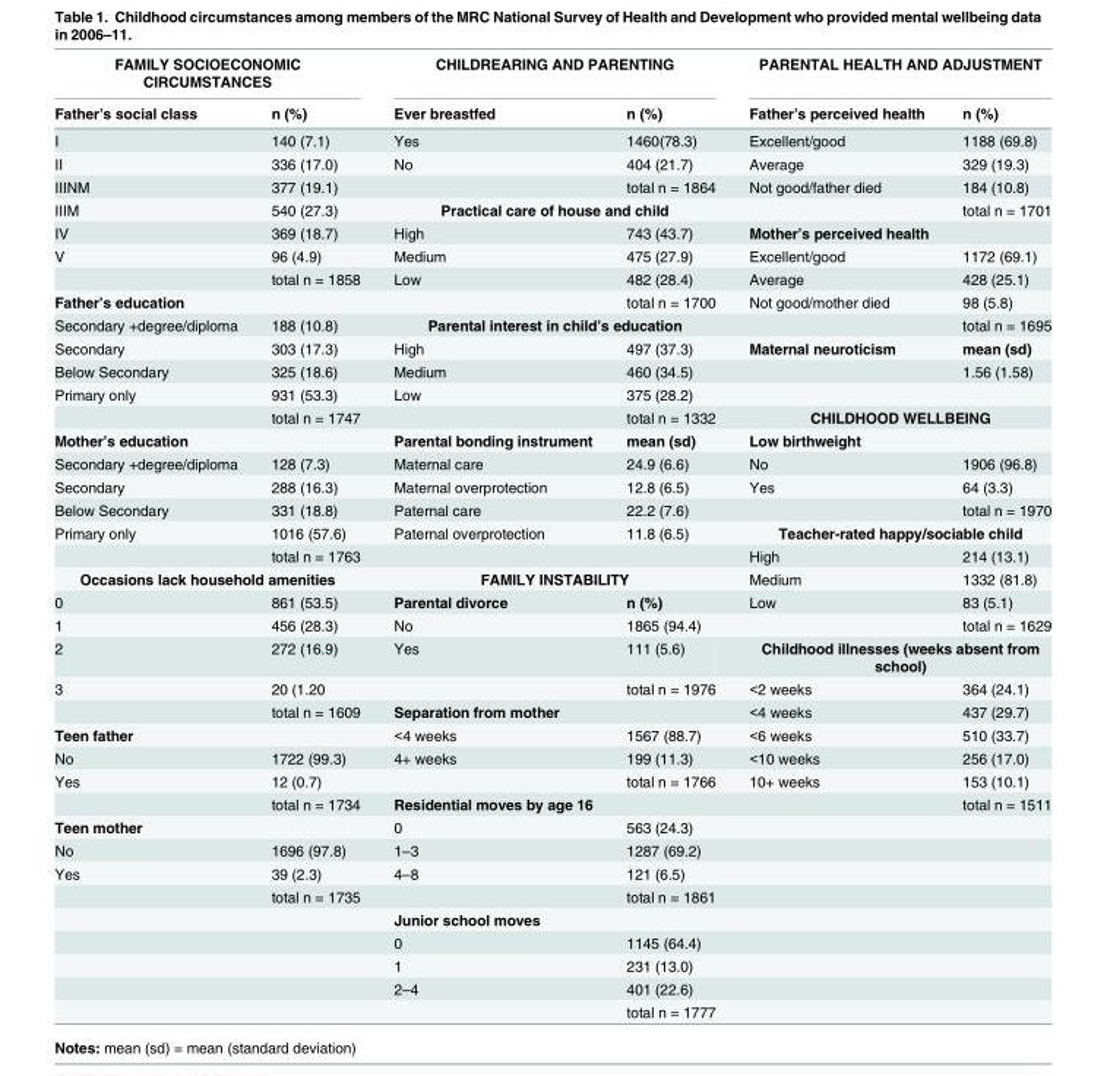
<table><thead><tr><td colspan="2">FAMILY SOCIOECONOMIC CIRCUMSTANCES</td><td colspan="2">CHILDREARING AND PARENTING</td><td colspan="2">PARENTAL HEALTH AND ADJUSTMENT</td></tr><tr><td>Father’s social class</td><td>n (%)</td><td>Ever breastfed</td><td>n (%)</td><td>Father’s perceived health</td><td>n (%)</td></tr></thead><tbody><tr><td>I</td><td>140 (7.1)</td><td>Yes</td><td>1460(78.3)</td><td>Excellent/good</td><td>1188 (69.8)</td></tr><tr><td>II</td><td>336 (17.0)</td><td>No</td><td>404 (21.7)</td><td>Average</td><td>329 (19.3)</td></tr><tr><td>IIINM</td><td>377 (19.1)</td><td></td><td>total n = 1864</td><td>Not good/father died</td><td>184 (10.8)</td></tr><tr><td>IIIM</td><td>540 (27.3)</td><td colspan="2">Practical care of house and child</td><td></td><td>total n = 1701</td></tr><tr><td>IV</td><td>369 (18.7)</td><td>High</td><td>743 (43.7)</td><td>Mother’s perceived health</td><td></td></tr><tr><td rowspan="2">V</td><td>96 (4.9)</td><td>Medium</td><td>475 (27.9)</td><td>Excellent/good</td><td>1172 (69.1)</td></tr><tr><td>total n = 1858</td><td>Low</td><td>482 (28.4)</td><td>Average</td><td>428 (25.1)</td></tr><tr><td>Father’s education</td><td></td><td></td><td>total n = 1700</td><td>Not good/mother died</td><td>98 (5.8)</td></tr><tr><td>Secondary +degree/diploma</td><td>188 (10.8)</td><td colspan="2">Parental interest in child’s education</td><td></td><td>total n = 1695</td></tr><tr><td>Secondary</td><td>303 (17.3)</td><td>High</td><td>497 (37.3)</td><td>Maternal neuroticism</td><td>mean (sd)</td></tr><tr><td>Below Secondary</td><td>325 (18.6)</td><td>Medium</td><td>460 (34.5)</td><td></td><td>1.56 (1.58)</td></tr><tr><td rowspan="2">Primary only</td><td>931 (53.3)</td><td>Low</td><td>375 (28.2)</td><td></td><td></td></tr><tr><td>total n = 1747</td><td></td><td>total n = 1332</td><td colspan="2">CHILDHOOD WELLBEING</td></tr><tr><td>Mother’s education</td><td></td><td>Parental bonding instrument</td><td>mean (sd)</td><td>Low birthweight</td><td></td></tr><tr><td>Secondary +degree/diploma</td><td>128 (7.3)</td><td>Maternal care</td><td>24.9 (6.6)</td><td>No</td><td>1906 (96.8)</td></tr><tr><td>Secondary</td><td>288 (16.3)</td><td>Maternal overprotection</td><td>12.8 (6.5)</td><td>Yes</td><td>64 (3.3)</td></tr><tr><td>Below Secondary</td><td>331 (18.8)</td><td>Paternal care</td><td>22.2 (7.6)</td><td></td><td>total n = 1970</td></tr><tr><td rowspan="2">Primary only</td><td>1016 (57.6)</td><td>Paternal overprotection</td><td>11.8 (6.5)</td><td colspan="2">Teacher-rated happy/sociable child</td></tr><tr><td>total n = 1763</td><td></td><td></td><td>High</td><td>214 (13.1)</td></tr><tr><td colspan="2">Occasions lack household amenities</td><td colspan="2">FAMILY INSTABILITY</td><td>Medium</td><td>1332 (81.8)</td></tr><tr><td>0</td><td>861 (53.5)</td><td>Parental divorce</td><td>n (%)</td><td>Low</td><td>83 (5.1)</td></tr><tr><td>1</td><td>456 (28.3)</td><td>No</td><td>1865 (94.4)</td><td></td><td>total n = 1629</td></tr><tr><td>2</td><td>272 (16.9)</td><td>Yes</td><td>111 (5.6)</td><td colspan="2">Childhood illnesses (weeks absent from school)</td></tr><tr><td rowspan="2">3</td><td>20 (1.20</td><td></td><td>total n = 1976</td><td>&lt;2 weeks</td><td>364 (24.1)</td></tr><tr><td>total n = 1609</td><td>Separation from mother</td><td></td><td>&lt;4 weeks</td><td>437 (29.7)</td></tr><tr><td>Teen father</td><td></td><td>&lt;4 weeks</td><td>1567 (88.7)</td><td>&lt;6 weeks</td><td>510 (33.7)</td></tr><tr><td>No</td><td>1722 (99.3)</td><td>4+ weeks</td><td>199 (11.3)</td><td>&lt;10 weeks</td><td>256 (17.0)</td></tr><tr><td rowspan="2">Yes</td><td>12 (0.7)</td><td></td><td>total n = 1766</td><td>10+ weeks</td><td>153 (10.1)</td></tr><tr><td>total n = 1734</td><td>Residential moves by age 16</td><td></td><td></td><td>total n = 1511</td></tr><tr><td>Teen mother</td><td></td><td>0</td><td>563 (24.3)</td><td></td><td></td></tr><tr><td>No</td><td>1696 (97.8)</td><td>1–3</td><td>1287 (69.2)</td><td></td><td></td></tr><tr><td rowspan="7">Yes</td><td>39 (2.3)</td><td>4–8</td><td>121 (6.5)</td><td></td><td></td></tr><tr><td>total n = 1735</td><td></td><td>total n = 1861</td><td></td><td></td></tr><tr><td></td><td>Junior school moves</td><td></td><td></td><td></td></tr><tr><td></td><td>0</td><td>1145 (64.4)</td><td></td><td></td></tr><tr><td></td><td>1</td><td>231 (13.0)</td><td></td><td></td></tr><tr><td></td><td>2–4</td><td>401 (22.6)</td><td></td><td></td></tr><tr><td></td><td></td><td>total n = 1777</td><td></td><td></td></tr></tbody></table>